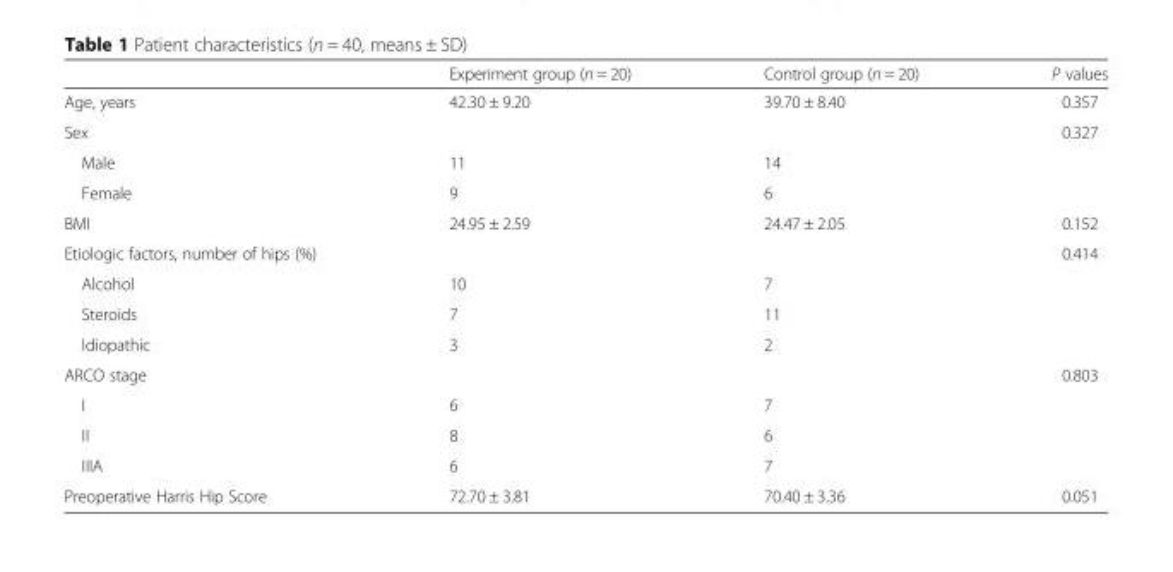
<table><thead><tr><td></td><td>Experiment group (n = 20)</td><td>Control group (n = 20)</td><td>P values</td></tr></thead><tbody><tr><td>Age, years</td><td>42.30 ± 9.20</td><td>39.70 ± 8.40</td><td>0.357</td></tr><tr><td>Sex</td><td></td><td></td><td>0.327</td></tr><tr><td>Male</td><td>11</td><td>14</td><td></td></tr><tr><td>Female</td><td>9</td><td>6</td><td></td></tr><tr><td>BMI</td><td>24.95 ± 2.59</td><td>24.47 ± 2.05</td><td>0.152</td></tr><tr><td>Etiologic factors, number of hips (%)</td><td></td><td></td><td>0.414</td></tr><tr><td>Alcohol</td><td>10</td><td>7</td><td></td></tr><tr><td>Steroids</td><td>7</td><td>11</td><td></td></tr><tr><td>Idiopathic</td><td>3</td><td>2</td><td></td></tr><tr><td>ARCO stage</td><td></td><td></td><td>0.803</td></tr><tr><td>I</td><td>6</td><td>7</td><td></td></tr><tr><td>II</td><td>8</td><td>6</td><td></td></tr><tr><td>IIIA</td><td>6</td><td>7</td><td></td></tr><tr><td>Preoperative Harris Hip Score</td><td>72.70 ± 3.81</td><td>70.40 ± 3.36</td><td>0.051</td></tr></tbody></table>